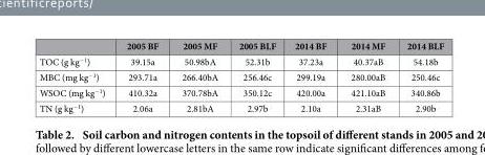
<table><thead><tr><td></td><td>2005 BF</td><td>2005 MF</td><td>2005 BLF</td><td>2014 BF</td><td>2014 MF</td><td>2014 BLF</td></tr></thead><tbody><tr><td>TOC (g kg<sup>−1</sup>)</td><td>39.15a</td><td>50.98bA</td><td>52.31b</td><td>37.23a</td><td>40.37aB</td><td>54.18b</td></tr><tr><td>MBC (mg kg<sup>−1</sup>)</td><td>293.71a</td><td>266.40bA</td><td>256.46c</td><td>299.19a</td><td>280.00aB</td><td>250.46c</td></tr><tr><td>WSOC (mg kg<sup>−1</sup>)</td><td>410.32a</td><td>370.78bA</td><td>350.12c</td><td>420.00a</td><td>421.10aB</td><td>340.86b</td></tr><tr><td>TN (g kg<sup>−1</sup>)</td><td>2.06a</td><td>2.81bA</td><td>2.97b</td><td>2.10a</td><td>2.31aB</td><td>2.90b</td></tr></tbody></table>